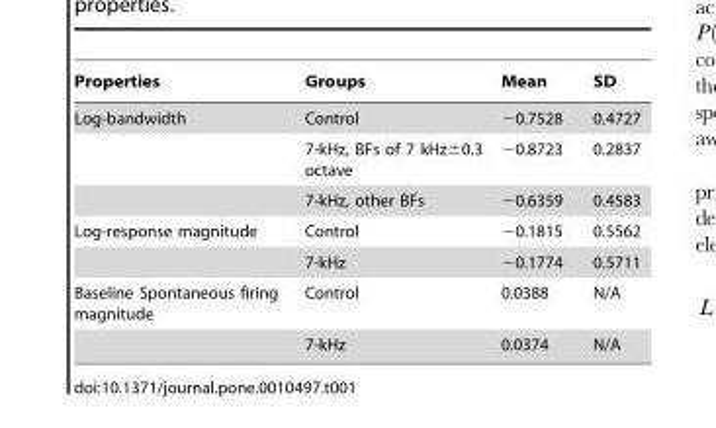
<table><thead><tr><td>Properties</td><td>Groups</td><td>Mean</td><td>SD</td></tr></thead><tbody><tr><td rowspan="3">Log-bandwidth</td><td>Control</td><td>−0.7528</td><td>0.4727</td></tr><tr><td>7-kHz, BFs of 7 kHz±0.3 octave</td><td>−0.8723</td><td>0.2837</td></tr><tr><td>7-kHz, other BFs</td><td>−0.6359</td><td>0.4583</td></tr><tr><td rowspan="2">Log-response magnitude</td><td>Control</td><td>−0.1815</td><td>0.5562</td></tr><tr><td>7-kHz</td><td>−0.1774</td><td>0.5711</td></tr><tr><td rowspan="2">Baseline Spontaneous firing magnitude</td><td>Control</td><td>0.0388</td><td>N/A</td></tr><tr><td>7-kHz</td><td>0.0374</td><td>N/A</td></tr></tbody></table>